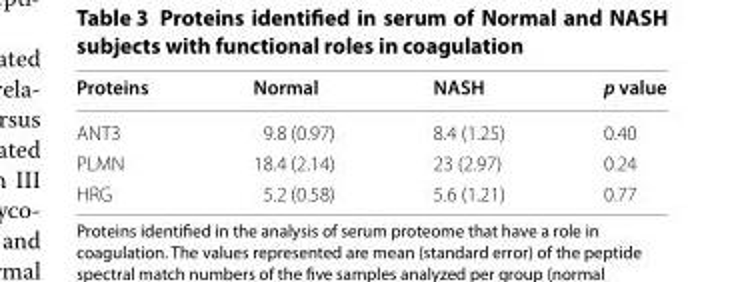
<table><thead><tr><td>Proteins</td><td>Normal</td><td>NASH</td><td>p value</td></tr></thead><tbody><tr><td>ANT3</td><td>9.8 (0.97)</td><td>8.4 (1.25)</td><td>0.40</td></tr><tr><td>PLMN</td><td>18.4 (2.14)</td><td>23 (2.97)</td><td>0.24</td></tr><tr><td>HRG</td><td>5.2 (0.58)</td><td>5.6 (1.21)</td><td>0.77</td></tr></tbody></table>